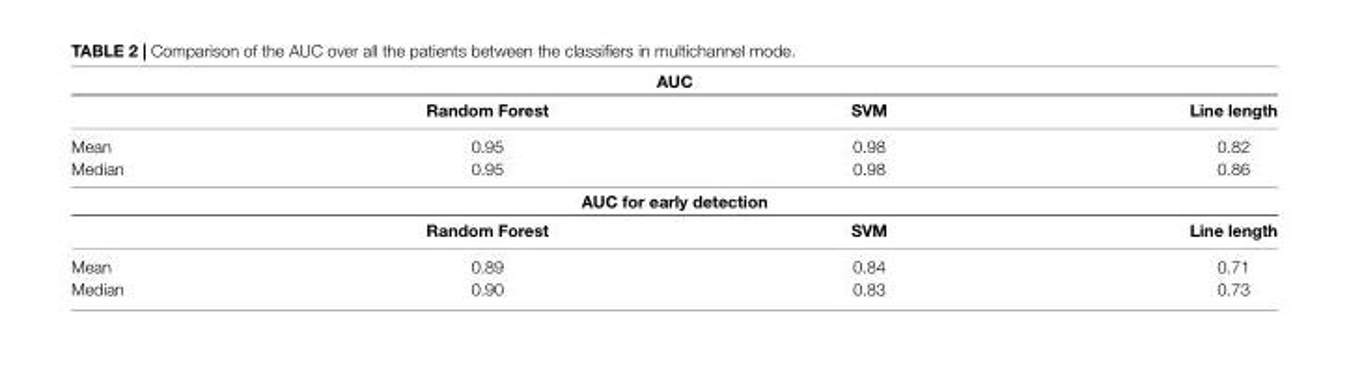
<table><thead><tr><td colspan="4">AUC</td></tr><tr><td></td><td>Random Forest</td><td>SVM</td><td>Line length</td></tr></thead><tbody><tr><td>Mean</td><td>0.95</td><td>0.98</td><td>0.82</td></tr><tr><td>Median</td><td>0.95</td><td>0.98</td><td>0.86</td></tr><tr><td colspan="4">AUC for early detection</td></tr><tr><td></td><td>Random Forest</td><td>SVM</td><td>Line length</td></tr><tr><td>Mean</td><td>0.89</td><td>0.84</td><td>0.71</td></tr><tr><td>Median</td><td>0.90</td><td>0.83</td><td>0.73</td></tr></tbody></table>